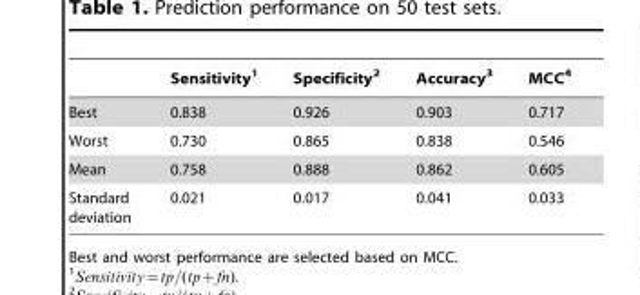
<table><thead><tr><td></td><td>Sensitivity<sup>1</sup></td><td>Specificity<sup>2</sup></td><td>Accuracy<sup>3</sup></td><td>MCC<sup>4</sup></td></tr></thead><tbody><tr><td>Best</td><td>0.838</td><td>0.926</td><td>0.903</td><td>0.717</td></tr><tr><td>Worst</td><td>0.730</td><td>0.865</td><td>0.838</td><td>0.546</td></tr><tr><td>Mean</td><td>0.758</td><td>0.888</td><td>0.862</td><td>0.605</td></tr><tr><td>Standard deviation</td><td>0.021</td><td>0.017</td><td>0.041</td><td>0.033</td></tr></tbody></table>